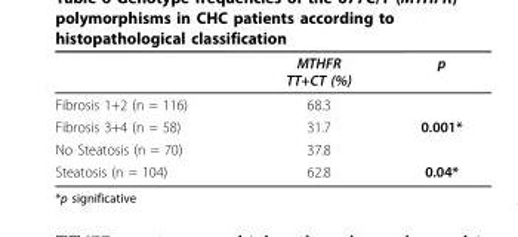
<table><thead><tr><td></td><td>MTHFR TT+CT (%)</td><td>p</td></tr></thead><tbody><tr><td>Fibrosis 1+2 (n = 116)</td><td>68.3</td><td></td></tr><tr><td>Fibrosis 3+4 (n = 58)</td><td>31.7</td><td>0.001*</td></tr><tr><td>No Steatosis (n = 70)</td><td>37.8</td><td></td></tr><tr><td>Steatosis (n = 104)</td><td>62.8</td><td>0.04*</td></tr></tbody></table>